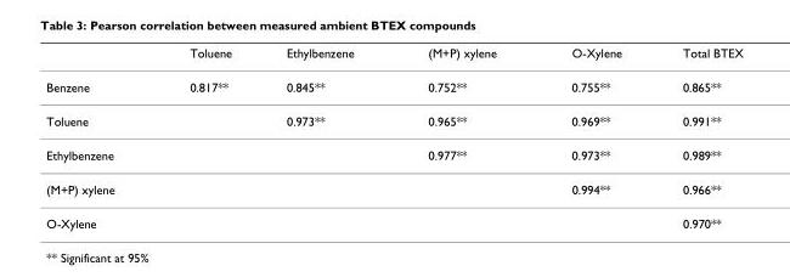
<table><thead><tr><td></td><td>Toluene</td><td>Ethylbenzene</td><td>(M+P) xylene</td><td>O-Xylene</td><td>Total BTEX</td></tr></thead><tbody><tr><td>Benzene</td><td>0.817**</td><td>0.845**</td><td>0.752**</td><td>0.755**</td><td>0.865**</td></tr><tr><td>Toluene</td><td></td><td>0.973**</td><td>0.965**</td><td>0.969**</td><td>0.991**</td></tr><tr><td>Ethylbenzene</td><td></td><td></td><td>0.977**</td><td>0.973**</td><td>0.989**</td></tr><tr><td>(M+P) xylene</td><td></td><td></td><td></td><td>0.994**</td><td>0.966**</td></tr><tr><td>O-Xylene</td><td></td><td></td><td></td><td></td><td>0.970**</td></tr></tbody></table>